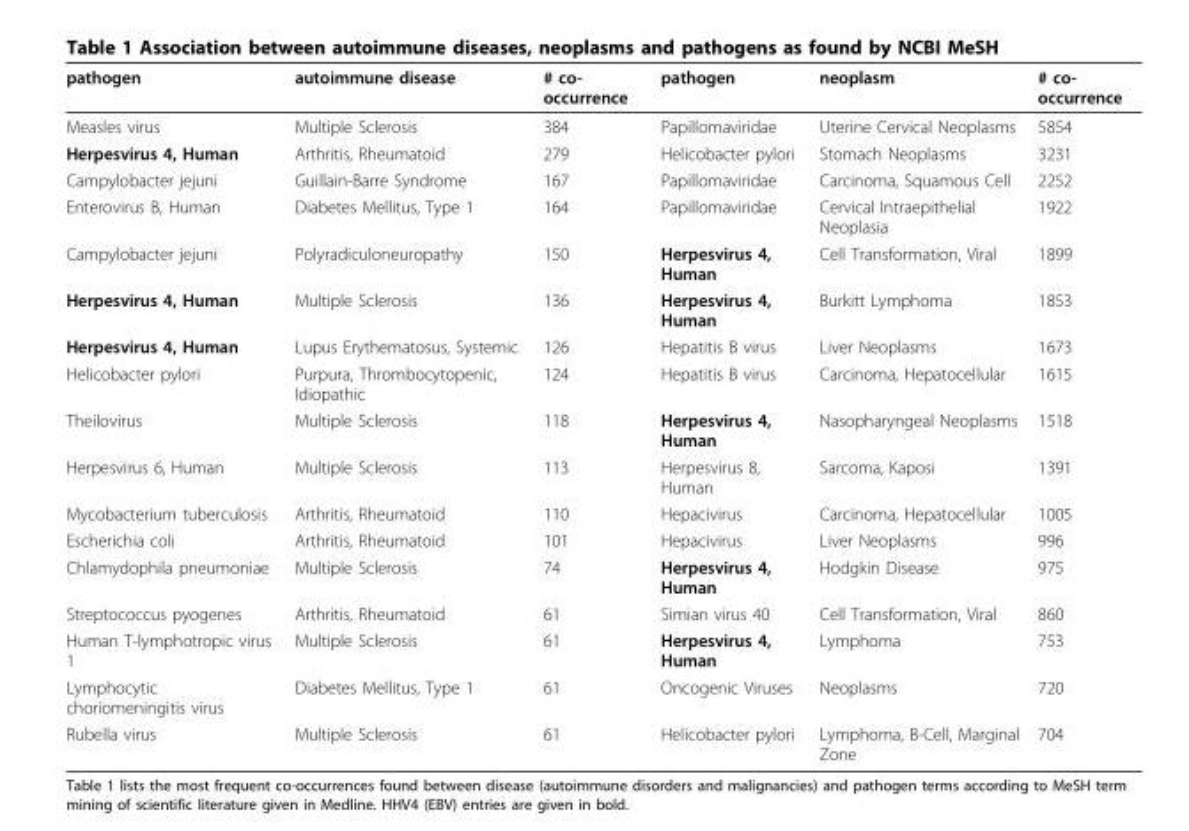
<table><thead><tr><td>pathogen</td><td>autoimmune disease</td><td># co- occurrence</td><td>pathogen</td><td>neoplasm</td><td># co- occurrence</td></tr></thead><tbody><tr><td>Measles virus</td><td>Multiple Sclerosis</td><td>384</td><td>Papillomaviridae</td><td>Uterine Cervical Neoplasms</td><td>5854</td></tr><tr><td>Herpesvirus 4, Human</td><td>Arthritis, Rheumatoid</td><td>279</td><td>Helicobacter pylori</td><td>Stomach Neoplasms</td><td>3231</td></tr><tr><td>Campylobacter jejuni</td><td>Guillain-Barre Syndrome</td><td>167</td><td>Papillomaviridae</td><td>Carcinoma, Squamous Cell</td><td>2252</td></tr><tr><td>Enterovirus B, Human</td><td>Diabetes Mellitus, Type 1</td><td>164</td><td>Papillomaviridae</td><td>Cervical Intraepithelial Neoplasia</td><td>1922</td></tr><tr><td>Campylobacter jejuni</td><td>Polyradiculoneuropathy</td><td>150</td><td>Herpesvirus 4, Human</td><td>Cell Transformation, Viral</td><td>1899</td></tr><tr><td>Herpesvirus 4, Human</td><td>Multiple Sclerosis</td><td>136</td><td>Herpesvirus 4, Human</td><td>Burkitt Lymphoma</td><td>1853</td></tr><tr><td>Herpesvirus 4, Human</td><td>Lupus Erythematosus, Systemic</td><td>126</td><td>Hepatitis B virus</td><td>Liver Neoplasms</td><td>1673</td></tr><tr><td>Helicobacter pylori</td><td>Purpura, Thrombocytopenic, Idiopathic</td><td>124</td><td>Hepatitis B virus</td><td>Carcinoma, Hepatocellular</td><td>1615</td></tr><tr><td>Theilovirus</td><td>Multiple Sclerosis</td><td>118</td><td>Herpesvirus 4, Human</td><td>Nasopharyngeal Neoplasms</td><td>1518</td></tr><tr><td>Herpesvirus 6, Human</td><td>Multiple Sclerosis</td><td>113</td><td>Herpesvirus 8, Human</td><td>Sarcoma, Kaposi</td><td>1391</td></tr><tr><td>Mycobacterium tuberculosis</td><td>Arthritis, Rheumatoid</td><td>110</td><td>Hepacivirus</td><td>Carcinoma, Hepatocellular</td><td>1005</td></tr><tr><td>Escherichia coli</td><td>Arthritis, Rheumatoid</td><td>101</td><td>Hepacivirus</td><td>Liver Neoplasms</td><td>996</td></tr><tr><td>Chlamydophila pneumoniae</td><td>Multiple Sclerosis</td><td>74</td><td>Herpesvirus 4, Human</td><td>Hodgkin Disease</td><td>975</td></tr><tr><td>Streptococcus pyogenes</td><td>Arthritis, Rheumatoid</td><td>61</td><td>Simian virus 40</td><td>Cell Transformation, Viral</td><td>860</td></tr><tr><td>Human T-lymphotropic virus 1</td><td>Multiple Sclerosis</td><td>61</td><td>Herpesvirus 4, Human</td><td>Lymphoma</td><td>753</td></tr><tr><td>Lymphocytic choriomeningitis virus</td><td>Diabetes Mellitus, Type 1</td><td>61</td><td>Oncogenic Viruses</td><td>Neoplasms</td><td>720</td></tr><tr><td>Rubella virus</td><td>Multiple Sclerosis</td><td>61</td><td>Helicobacter pylori</td><td>Lymphoma, B-Cell, Marginal Zone</td><td>704</td></tr></tbody></table>